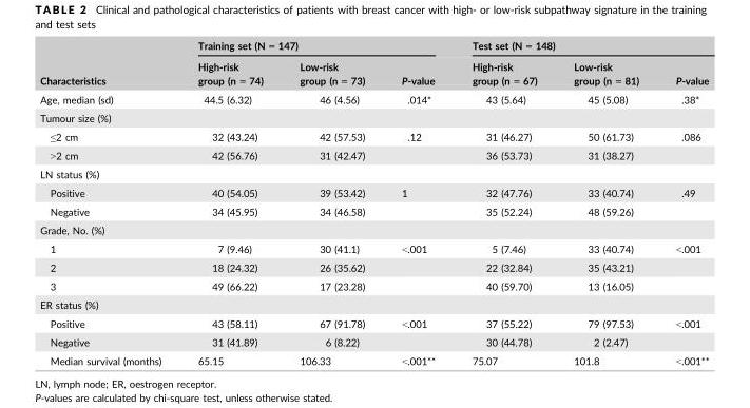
<table><thead><tr><td rowspan="2">Characteristics</td><td colspan="3">Training set (N = 147)</td><td colspan="3">Test set (N = 148)</td></tr><tr><td>High-risk group (n = 74)</td><td>Low-risk group (n = 73)</td><td>P-value</td><td>High-risk group (n = 67)</td><td>Low-risk group (n = 81)</td><td>P-value</td></tr></thead><tbody><tr><td>Age, median (sd)</td><td>44.5 (6.32)</td><td>46 (4.56)</td><td>.014*</td><td>43 (5.64)</td><td>45 (5.08)</td><td>.38*</td></tr><tr><td colspan="7">Tumour size (%)</td></tr><tr><td>≤2 cm</td><td>32 (43.24)</td><td>42 (57.53)</td><td>.12</td><td>31 (46.27)</td><td>50 (61.73)</td><td>.086</td></tr><tr><td>&gt;2 cm</td><td>42 (56.76)</td><td>31 (42.47)</td><td></td><td>36 (53.73)</td><td>31 (38.27)</td><td></td></tr><tr><td colspan="7">LN status (%)</td></tr><tr><td>Positive</td><td>40 (54.05)</td><td>39 (53.42)</td><td>1</td><td>32 (47.76)</td><td>33 (40.74)</td><td>.49</td></tr><tr><td>Negative</td><td>34 (45.95)</td><td>34 (46.58)</td><td></td><td>35 (52.24)</td><td>48 (59.26)</td><td></td></tr><tr><td colspan="7">Grade, No. (%)</td></tr><tr><td>1</td><td>7 (9.46)</td><td>30 (41.1)</td><td>&lt;.001</td><td>5 (7.46)</td><td>33 (40.74)</td><td>&lt;.001</td></tr><tr><td>2</td><td>18 (24.32)</td><td>26 (35.62)</td><td></td><td>22 (32.84)</td><td>35 (43.21)</td><td></td></tr><tr><td>3</td><td>49 (66.22)</td><td>17 (23.28)</td><td></td><td>40 (59.70)</td><td>13 (16.05)</td><td></td></tr><tr><td colspan="7">ER status (%)</td></tr><tr><td>Positive</td><td>43 (58.11)</td><td>67 (91.78)</td><td>&lt;.001</td><td>37 (55.22)</td><td>79 (97.53)</td><td>&lt;.001</td></tr><tr><td>Negative</td><td>31 (41.89)</td><td>6 (8.22)</td><td></td><td>30 (44.78)</td><td>2 (2.47)</td><td></td></tr><tr><td>Median survival (months)</td><td>65.15</td><td>106.33</td><td>&lt;.001**</td><td>75.07</td><td>101.8</td><td>&lt;.001**</td></tr></tbody></table>